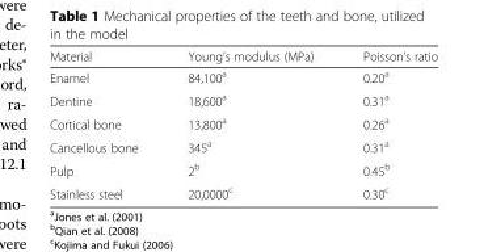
<table><thead><tr><td>Material</td><td>Young’s modulus (MPa)</td><td>Poisson’s ratio</td></tr></thead><tbody><tr><td>Enamel</td><td>84,100<sup>a</sup></td><td>0.20<sup>a</sup></td></tr><tr><td>Dentine</td><td>18,600<sup>a</sup></td><td>0.31<sup>a</sup></td></tr><tr><td>Cortical bone</td><td>13,800<sup>a</sup></td><td>0.26<sup>a</sup></td></tr><tr><td>Cancellous bone</td><td>345<sup>a</sup></td><td>0.31<sup>a</sup></td></tr><tr><td>Pulp</td><td>2<sup>b</sup></td><td>0.45<sup>b</sup></td></tr><tr><td>Stainless steel</td><td>20,0000<sup>c</sup></td><td>0.30<sup>c</sup></td></tr></tbody></table>